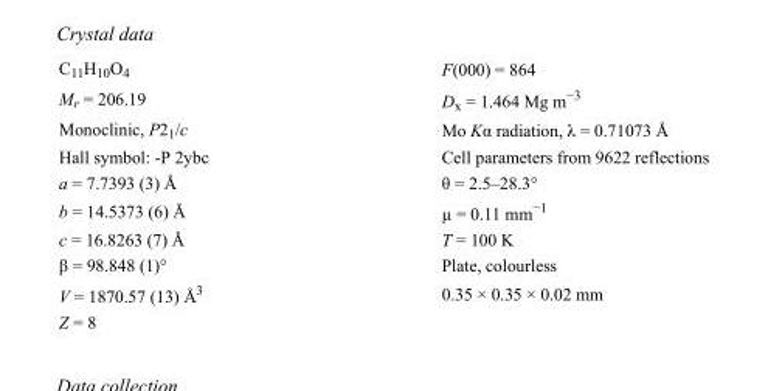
<table><tbody><tr><td>C<sub>11</sub>H<sub>10</sub>O<sub>4</sub></td><td>F(000) = 864</td></tr><tr><td>M<sub>r</sub> = 206.19</td><td>D<sub>x</sub> = 1.464 Mg m<sup>−3</sup></td></tr><tr><td>Monoclinic, P2<sub>1</sub>/c</td><td>Mo Kα radiation, λ = 0.71073 Å</td></tr><tr><td>Hall symbol: -P 2ybc</td><td>Cell parameters from 9622 reflections</td></tr><tr><td>a = 7.7393 (3) Å</td><td>θ = 2.5–28.3°</td></tr><tr><td>b = 14.5373 (6) Å</td><td>µ = 0.11 mm<sup>−1</sup></td></tr><tr><td>c = 16.8263 (7) Å</td><td>T = 100 K</td></tr><tr><td>β = 98.848 (1)°</td><td>Plate, colourless</td></tr><tr><td>V = 1870.57 (13) Å<sup>3</sup></td><td>0.35 × 0.35 × 0.02 mm</td></tr><tr><td>Z = 8</td><td></td></tr></tbody></table>